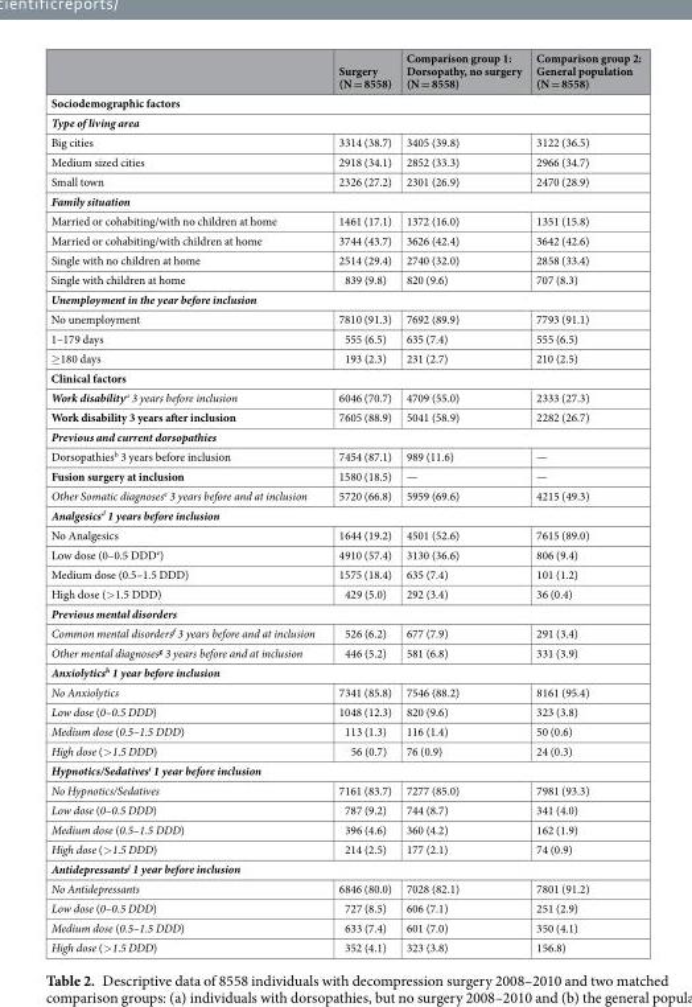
<table><thead><tr><td></td><td>Surgery (N = 8558)</td><td>Comparison group 1: Dorsopathy, no surgery (N = 8558)</td><td>Comparison group 2: General population (N = 8558)</td></tr></thead><tbody><tr><td colspan="4">Sociodemographic factors</td></tr><tr><td colspan="4">Type of living area</td></tr><tr><td>Big cities</td><td>3314 (38.7)</td><td>3405 (39.8)</td><td>3122 (36.5)</td></tr><tr><td>Medium sized cities</td><td>2918 (34.1)</td><td>2852 (33.3)</td><td>2966 (34.7)</td></tr><tr><td>Small town</td><td>2326 (27.2)</td><td>2301 (26.9)</td><td>2470 (28.9)</td></tr><tr><td colspan="4">Family situation</td></tr><tr><td>Married or cohabiting/with no children at home</td><td>1461 (17.1)</td><td>1372 (16.0)</td><td>1351 (15.8)</td></tr><tr><td>Married or cohabiting/with children at home</td><td>3744 (43.7)</td><td>3626 (42.4)</td><td>3642 (42.6)</td></tr><tr><td>Single with no children at home</td><td>2514 (29.4)</td><td>2740 (32.0)</td><td>2858 (33.4)</td></tr><tr><td>Single with children at home</td><td>839 (9.8)</td><td>820 (9.6)</td><td>707 (8.3)</td></tr><tr><td colspan="4">Unemployment in the year before inclusion</td></tr><tr><td>No unemployment</td><td>7810 (91.3)</td><td>7692 (89.9)</td><td>7793 (91.1)</td></tr><tr><td>1–179 days</td><td>555 (6.5)</td><td>635 (7.4)</td><td>555 (6.5)</td></tr><tr><td>≥180 days</td><td>193 (2.3)</td><td>231 (2.7)</td><td>210 (2.5)</td></tr><tr><td colspan="4">Clinical factors</td></tr><tr><td>Work disability<sup>a</sup> 3 years before inclusion</td><td>6046 (70.7)</td><td>4709 (55.0)</td><td>2333 (27.3)</td></tr><tr><td>Work disability 3 years after inclusion</td><td>7605 (88.9)</td><td>5041 (58.9)</td><td>2282 (26.7)</td></tr><tr><td colspan="4">Previous and current dorsopathies</td></tr><tr><td>Dorsopathies<sup>b</sup> 3 years before inclusion</td><td>7454 (87.1)</td><td>989 (11.6)</td><td>—</td></tr><tr><td>Fusion surgery at inclusion</td><td>1580 (18.5)</td><td>—</td><td>—</td></tr><tr><td>Other Somatic diagnoses<sup>c</sup> 3 years before and at inclusion</td><td>5720 (66.8)</td><td>5959 (69.6)</td><td>4215 (49.3)</td></tr><tr><td colspan="4">Analgesics<sup>d</sup> 1 years before inclusion</td></tr><tr><td>No Analgesics</td><td>1644 (19.2)</td><td>4501 (52.6)</td><td>7615 (89.0)</td></tr><tr><td>Low dose (0–0.5 DDD<sup>e</sup>)</td><td>4910 (57.4)</td><td>3130 (36.6)</td><td>806 (9.4)</td></tr><tr><td>Medium dose (0.5–1.5 DDD)</td><td>1575 (18.4)</td><td>635 (7.4)</td><td>101 (1.2)</td></tr><tr><td>High dose (&gt;1.5 DDD)</td><td>429 (5.0)</td><td>292 (3.4)</td><td>36 (0.4)</td></tr><tr><td colspan="4">Previous mental disorders</td></tr><tr><td>Common mental disorders<sup>f</sup> 3 years before and at inclusion</td><td>526 (6.2)</td><td>677 (7.9)</td><td>291 (3.4)</td></tr><tr><td>Other mental diagnoses<sup>g</sup> 3 years before and at inclusion</td><td>446 (5.2)</td><td>581 (6.8)</td><td>331 (3.9)</td></tr><tr><td colspan="4">Anxiolytics<sup>h</sup> 1 year before inclusion</td></tr><tr><td>No Anxiolytics</td><td>7341 (85.8)</td><td>7546 (88.2)</td><td>8161 (95.4)</td></tr><tr><td>Low dose (0–0.5 DDD)</td><td>1048 (12.3)</td><td>820 (9.6)</td><td>323 (3.8)</td></tr><tr><td>Medium dose (0.5–1.5 DDD)</td><td>113 (1.3)</td><td>116 (1.4)</td><td>50 (0.6)</td></tr><tr><td>High dose (&gt;1.5 DDD)</td><td>56 (0.7)</td><td>76 (0.9)</td><td>24 (0.3)</td></tr><tr><td colspan="4">Hypnotics/Sedatives<sup>i</sup> 1 year before inclusion</td></tr><tr><td>No Hypnotics/Sedatives</td><td>7161 (83.7)</td><td>7277 (85.0)</td><td>7981 (93.3)</td></tr><tr><td>Low dose (0–0.5 DDD)</td><td>787 (9.2)</td><td>744 (8.7)</td><td>341 (4.0)</td></tr><tr><td>Medium dose (0.5–1.5 DDD)</td><td>396 (4.6)</td><td>360 (4.2)</td><td>162 (1.9)</td></tr><tr><td>High dose (&gt;1.5 DDD)</td><td>214 (2.5)</td><td>177 (2.1)</td><td>74 (0.9)</td></tr><tr><td colspan="4">Antidepressants<sup>j</sup> 1 year before inclusion</td></tr><tr><td>No Antidepressants</td><td>6846 (80.0)</td><td>7028 (82.1)</td><td>7801 (91.2)</td></tr><tr><td>Low dose (0–0.5 DDD)</td><td>727 (8.5)</td><td>606 (7.1)</td><td>251 (2.9)</td></tr><tr><td>Medium dose (0.5–1.5 DDD)</td><td>633 (7.4)</td><td>601 (7.0)</td><td>350 (4.1)</td></tr><tr><td>High dose (&gt;1.5 DDD)</td><td>352 (4.1)</td><td>323 (3.8)</td><td>156.8)</td></tr></tbody></table>